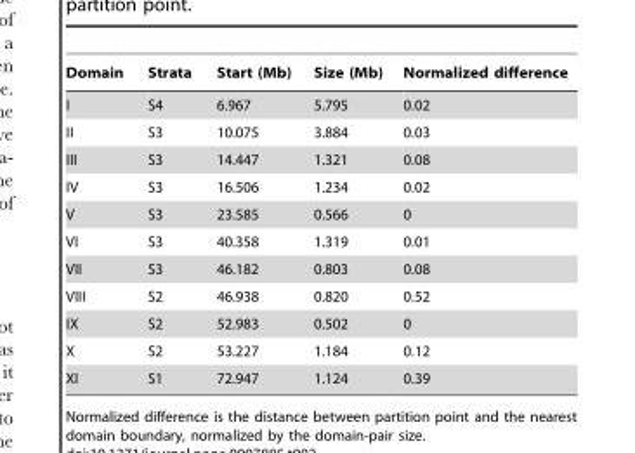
<table><thead><tr><td>Domain</td><td>Strata</td><td>Start (Mb)</td><td>Size (Mb)</td><td>Normalized difference</td></tr></thead><tbody><tr><td>I</td><td>S4</td><td>6.967</td><td>5.795</td><td>0.02</td></tr><tr><td>II</td><td>S3</td><td>10.075</td><td>3.884</td><td>0.03</td></tr><tr><td>III</td><td>S3</td><td>14.447</td><td>1.321</td><td>0.08</td></tr><tr><td>IV</td><td>S3</td><td>16.506</td><td>1.234</td><td>0.02</td></tr><tr><td>V</td><td>S3</td><td>23.585</td><td>0.566</td><td>0</td></tr><tr><td>VI</td><td>S3</td><td>40.358</td><td>1.319</td><td>0.01</td></tr><tr><td>VII</td><td>S3</td><td>46.182</td><td>0.803</td><td>0.08</td></tr><tr><td>VIII</td><td>S2</td><td>46.938</td><td>0.820</td><td>0.52</td></tr><tr><td>IX</td><td>S2</td><td>52.983</td><td>0.502</td><td>0</td></tr><tr><td>X</td><td>S2</td><td>53.227</td><td>1.184</td><td>0.12</td></tr><tr><td>XI</td><td>S1</td><td>72.947</td><td>1.124</td><td>0.39</td></tr></tbody></table>